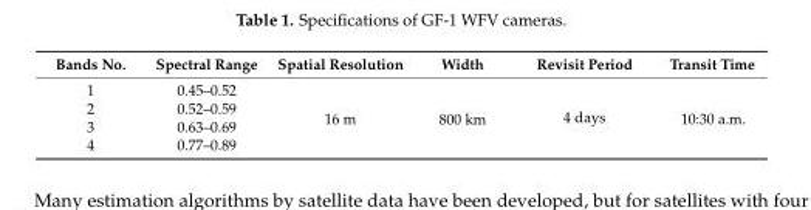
<table><thead><tr><td>Bands No.</td><td>Spectral Range</td><td>Spatial Resolution</td><td>Width</td><td>Revisit Period</td><td>Transit Time</td></tr></thead><tbody><tr><td>1</td><td>0.45–0.52</td><td rowspan="4">16 m</td><td rowspan="4">800 km</td><td rowspan="4">4 days</td><td rowspan="4">10:30 a.m.</td></tr><tr><td>2</td><td>0.52–0.59</td></tr><tr><td>3</td><td>0.63–0.69</td></tr><tr><td>4</td><td>0.77–0.89</td></tr></tbody></table>